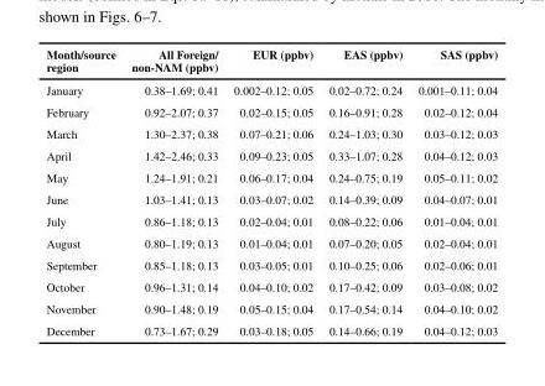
<table><thead><tr><td>Month/source region</td><td>All Foreign/ non-NAM (ppbv)</td><td>EUR (ppbv)</td><td>EAS (ppbv)</td><td>SAS (ppbv)</td></tr></thead><tbody><tr><td>January</td><td>0.38–1.69; 0.41</td><td>0.002–0.12; 0.05</td><td>0.02–0.72; 0.24</td><td>0.001–0.11; 0.04</td></tr><tr><td>February</td><td>0.92–2.07; 0.37</td><td>0.02–0.15; 0.05</td><td>0.16–0.91; 0.28</td><td>0.02–0.12; 0.04</td></tr><tr><td>March</td><td>1.30–2.37; 0.38</td><td>0.07–0.21; 0.06</td><td>0.24–1.03; 0.30</td><td>0.03–0.12; 0.03</td></tr><tr><td>April</td><td>1.42–2.46; 0.33</td><td>0.09–0.23; 0.05</td><td>0.33–1.07; 0.28</td><td>0.04–0.12; 0.03</td></tr><tr><td>May</td><td>1.24–1.91; 0.21</td><td>0.06–0.17; 0.04</td><td>0.24–0.75; 0.19</td><td>0.05–0.11; 0.02</td></tr><tr><td>June</td><td>1.03–1.41; 0.13</td><td>0.03–0.07; 0.02</td><td>0.14–0.39; 0.09</td><td>0.04–0.07; 0.01</td></tr><tr><td>July</td><td>0.86–1.18; 0.13</td><td>0.02–0.04; 0.01</td><td>0.08–0.22; 0.06</td><td>0.01–0.04; 0.01</td></tr><tr><td>August</td><td>0.80–1.19; 0.13</td><td>0.01–0.04; 0.01</td><td>0.07–0.20; 0.05</td><td>0.02–0.04; 0.01</td></tr><tr><td>September</td><td>0.85–1.18; 0.13</td><td>0.03–0.05; 0.01</td><td>0.10–0.25; 0.06</td><td>0.02–0.06; 0.01</td></tr><tr><td>October</td><td>0.96–1.31; 0.14</td><td>0.04–0.10; 0.02</td><td>0.17–0.42; 0.09</td><td>0.03–0.08; 0.02</td></tr><tr><td>November</td><td>0.90–1.48; 0.19</td><td>0.05–0.15; 0.04</td><td>0.17–0.54; 0.14</td><td>0.04–0.10; 0.02</td></tr><tr><td>December</td><td>0.73–1.67; 0.29</td><td>0.03–0.18; 0.05</td><td>0.14–0.66; 0.19</td><td>0.04–0.12; 0.03</td></tr></tbody></table>